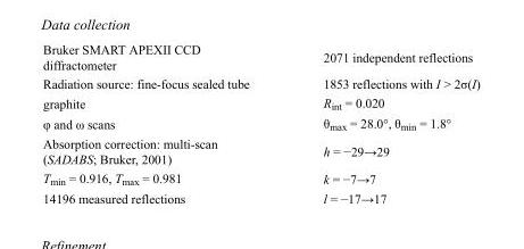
<table><tbody><tr><td>Bruker SMART APEXII CCD diffractometer</td><td>2071 independent reflections</td></tr><tr><td>Radiation source: fine-focus sealed tube</td><td>1853 reflections with I &gt; 2σ(I)</td></tr><tr><td>graphite</td><td>R<sub>int</sub> = 0.020</td></tr><tr><td>φ and ω scans</td><td>θ<sub>max</sub> = 28.0°, θ<sub>min</sub> = 1.8°</td></tr><tr><td>Absorption correction: multi-scan (SADABS; Bruker, 2001)</td><td>h = −29→29</td></tr><tr><td>T<sub>min</sub> = 0.916, T<sub>max</sub> = 0.981</td><td>k = −7→7</td></tr><tr><td>14196 measured reflections</td><td>l = −17→17</td></tr></tbody></table>